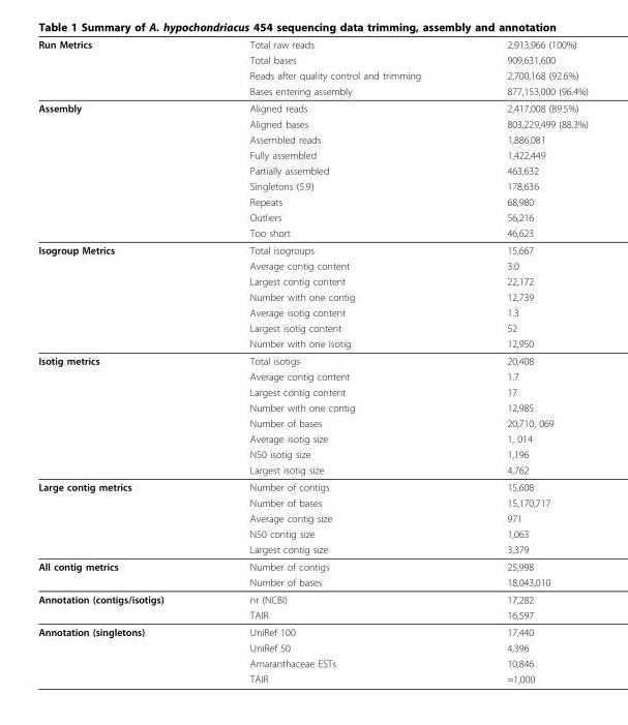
<table><thead><tr><td rowspan="4">Run Metrics</td><td rowspan="4">Total raw reads Total bases Reads after quality control and trimming Bases entering assembly</td><td rowspan="4">2,913,966 (100%) 909,631,600 2,700,168 (92.6%) 877,153,000 (96.4%)</td></tr><tr></tr><tr></tr><tr></tr></thead><tbody><tr><td rowspan="9">Assembly</td><td>Aligned reads</td><td>2,417,008 (89.5%)</td></tr><tr><td>Aligned bases</td><td>803,229,499 (88.3%)</td></tr><tr><td>Assembled reads</td><td>1,886,081</td></tr><tr><td>Fully assembled</td><td>1,422,449</td></tr><tr><td>Partially assembled</td><td>463,632</td></tr><tr><td>Singletons (5.9)</td><td>178,636</td></tr><tr><td>Repeats</td><td>68,980</td></tr><tr><td>Outliers</td><td>56,216</td></tr><tr><td>Too short</td><td>46,623</td></tr><tr><td rowspan="7">Isogroup Metrics</td><td>Total isogroups</td><td>15,667</td></tr><tr><td>Average contig content</td><td>3.0</td></tr><tr><td>Largest contig content</td><td>22,172</td></tr><tr><td>Number with one contig</td><td>12,739</td></tr><tr><td>Average isotig content</td><td>1.3</td></tr><tr><td>Largest isotig content</td><td>52</td></tr><tr><td>Number with one isotig</td><td>12,950</td></tr><tr><td rowspan="8">Isotig metrics</td><td>Total isotigs</td><td>20,408</td></tr><tr><td>Average contig content</td><td>1.7</td></tr><tr><td>Largest contig content</td><td>17</td></tr><tr><td>Number with one contig</td><td>12,985</td></tr><tr><td>Number of bases</td><td>20,710, 069</td></tr><tr><td>Average isotig size</td><td>1, 014</td></tr><tr><td>N50 isotig size</td><td>1,196</td></tr><tr><td>Largest isotig size</td><td>4,762</td></tr><tr><td rowspan="5">Large contig metrics</td><td>Number of contigs</td><td>15,608</td></tr><tr><td>Number of bases</td><td>15,170,717</td></tr><tr><td>Average contig size</td><td>971</td></tr><tr><td>N50 contig size</td><td>1,063</td></tr><tr><td>Largest contig size</td><td>3,379</td></tr><tr><td rowspan="2">All contig metrics</td><td>Number of contigs</td><td>25,998</td></tr><tr><td>Number of bases</td><td>18,043,010</td></tr><tr><td rowspan="2">Annotation (contigs/isotigs)</td><td>nr (NCBI)</td><td>17,282</td></tr><tr><td>TAIR</td><td>16,597</td></tr><tr><td rowspan="4">Annotation (singletons)</td><td>UniRef 100</td><td>17,440</td></tr><tr><td>UniRef 50</td><td>4,396</td></tr><tr><td>Amaranthaceae ESTs</td><td>10,846</td></tr><tr><td>TAIR</td><td>≈1,000</td></tr></tbody></table>